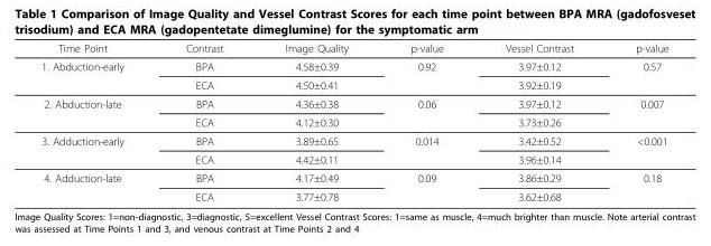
<table><thead><tr><td>Time Point</td><td>Contrast</td><td>Image Quality</td><td>p-value</td><td>Vessel Contrast</td><td>p-value</td></tr></thead><tbody><tr><td rowspan="2">1. Abduction-early</td><td>BPA</td><td>4.58±0.39</td><td>0.92</td><td>3.97±0.12</td><td>0.57</td></tr><tr><td>ECA</td><td>4.50±0.41</td><td></td><td>3.92±0.19</td><td></td></tr><tr><td rowspan="2">2. Abduction-late</td><td>BPA</td><td>4.36±0.38</td><td>0.06</td><td>3.97±0.12</td><td>0.007</td></tr><tr><td>ECA</td><td>4.12±0.30</td><td></td><td>3.73±0.26</td><td></td></tr><tr><td rowspan="2">3. Adduction-early</td><td>BPA</td><td>3.89±0.65</td><td>0.014</td><td>3.42±0.52</td><td>&lt;0.001</td></tr><tr><td>ECA</td><td>4.42±0.11</td><td></td><td>3.96±0.14</td><td></td></tr><tr><td rowspan="2">4. Adduction-late</td><td>BPA</td><td>4.17±0.49</td><td>0.09</td><td>3.86±0.29</td><td>0.18</td></tr><tr><td>ECA</td><td>3.77±0.78</td><td></td><td>3.62±0.68</td><td></td></tr></tbody></table>